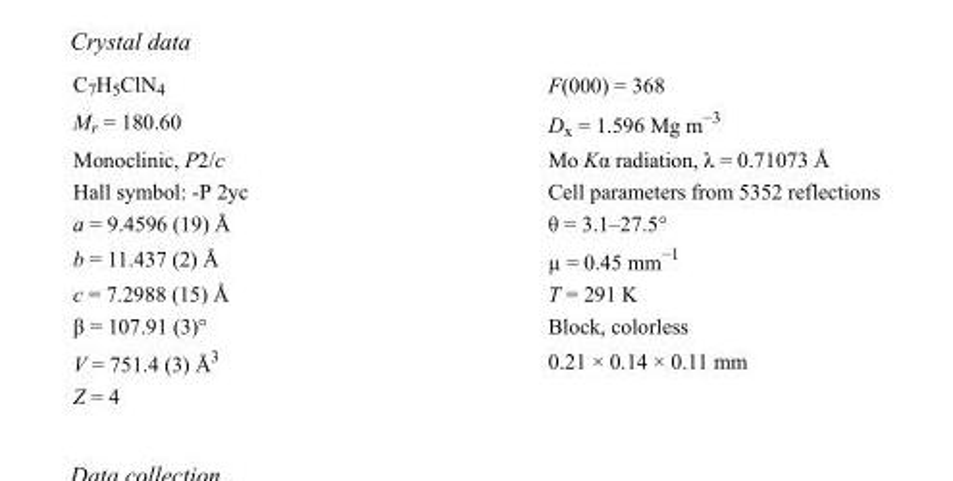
<table><tbody><tr><td>C<sub>7</sub>H<sub>5</sub>ClN<sub>4</sub></td><td>F(000) = 368</td></tr><tr><td>M<sub>r</sub> = 180.60</td><td>D<sub>x</sub> = 1.596 Mg m<sup>−3</sup></td></tr><tr><td>Monoclinic, P2/c</td><td>Mo Kα radiation, λ = 0.71073 Å</td></tr><tr><td>Hall symbol: -P 2yc</td><td>Cell parameters from 5352 reflections</td></tr><tr><td>a = 9.4596 (19) Å</td><td>θ = 3.1–27.5°</td></tr><tr><td>b = 11.437 (2) Å</td><td>µ = 0.45 mm<sup>−1</sup></td></tr><tr><td>c = 7.2988 (15) Å</td><td>T = 291 K</td></tr><tr><td>β = 107.91 (3)°</td><td>Block, colorless</td></tr><tr><td>V = 751.4 (3) Å<sup>3</sup></td><td>0.21 × 0.14 × 0.11 mm</td></tr><tr><td>Z = 4</td><td></td></tr></tbody></table>